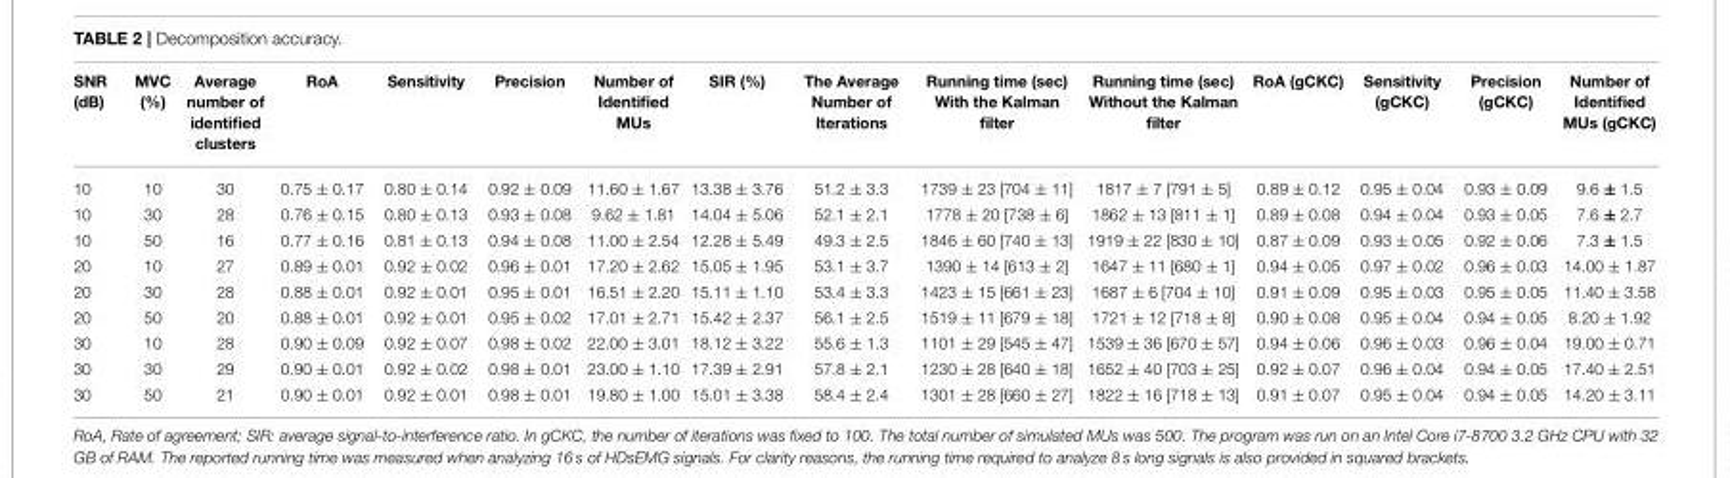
<table><thead><tr><td>SNR (dB)</td><td>MVC (%)</td><td>Average number of identified clusters</td><td>RoA</td><td>Sensitivity</td><td>Precision</td><td>Number of Identified MUs</td><td>SIR (%)</td><td>The Average Number of Iterations</td><td>Running time (sec) With the Kalman filter</td><td>Running time (sec) Without the Kalman filter</td><td>RoA (gCKC)</td><td>Sensitivity (gCKC)</td><td>Precision (gCKC)</td><td>Number of Identified MUs (gCKC)</td></tr></thead><tbody><tr><td>10</td><td>10</td><td>30</td><td>0.75 ± 0.17</td><td>0.80 ± 0.14</td><td>0.92 ± 0.09</td><td>11.60 ± 1.67</td><td>13.38 ± 3.76</td><td>51.2 ± 3.3</td><td>1739 ± 23 [704 ± 11]</td><td>1817 ± 7 [791 ± 5]</td><td>0.89 ± 0.12</td><td>0.95 ± 0.04</td><td>0.93 ± 0.09</td><td>9.6 ± 1.5</td></tr><tr><td>10</td><td>30</td><td>28</td><td>0.76 ± 0.15</td><td>0.80 ± 0.13</td><td>0.93 ± 0.08</td><td>9.62 ± 1.81</td><td>14.04 ± 5.06</td><td>52.1 ± 2.1</td><td>1778 ± 20 [738 ± 6]</td><td>1862 ± 13 [811 ± 1]</td><td>0.89 ± 0.08</td><td>0.94 ± 0.04</td><td>0.93 ± 0.05</td><td>7.6 ± 2.7</td></tr><tr><td>10</td><td>50</td><td>16</td><td>0.77 ± 0.16</td><td>0.81 ± 0.13</td><td>0.94 ± 0.08</td><td>11.00 ± 2.54</td><td>12.28 ± 5.49</td><td>49.3 ± 2.5</td><td>1846 ± 60 [740 ± 13]</td><td>1919 ± 22 [830 ± 10]</td><td>0.87 ± 0.09</td><td>0.93 ± 0.05</td><td>0.92 ± 0.06</td><td>7.3 ± 1.5</td></tr><tr><td>20</td><td>10</td><td>27</td><td>0.89 ± 0.01</td><td>0.92 ± 0.02</td><td>0.96 ± 0.01</td><td>17.20 ± 2.62</td><td>15.05 ± 1.95</td><td>53.1 ± 3.7</td><td>1390 ± 14 [613 ± 2]</td><td>1647 ± 11 [680 ± 1]</td><td>0.94 ± 0.05</td><td>0.97 ± 0.02</td><td>0.96 ± 0.03</td><td>14.00 ± 1.87</td></tr><tr><td>20</td><td>30</td><td>28</td><td>0.88 ± 0.01</td><td>0.92 ± 0.01</td><td>0.95 ± 0.01</td><td>16.51 ± 2.20</td><td>15.11 ± 1.10</td><td>53.4 ± 3.3</td><td>1423 ± 15 [661 ± 23]</td><td>1687 ± 6 [704 ± 10]</td><td>0.91 ± 0.09</td><td>0.95 ± 0.03</td><td>0.95 ± 0.05</td><td>11.40 ± 3.58</td></tr><tr><td>20</td><td>50</td><td>20</td><td>0.88 ± 0.01</td><td>0.92 ± 0.01</td><td>0.95 ± 0.02</td><td>17.01 ± 2.71</td><td>15.42 ± 2.37</td><td>56.1 ± 2.5</td><td>1519 ± 11 [679 ± 18]</td><td>1721 ± 12 [718 ± 8]</td><td>0.90 ± 0.08</td><td>0.95 ± 0.04</td><td>0.94 ± 0.05</td><td>8.20 ± 1.92</td></tr><tr><td>30</td><td>10</td><td>28</td><td>0.90 ± 0.09</td><td>0.92 ± 0.07</td><td>0.98 ± 0.02</td><td>22.00 ± 3.01</td><td>18.12 ± 3.22</td><td>55.6 ± 1.3</td><td>1101 ± 29 [545 ± 47]</td><td>1539 ± 36 [670 ± 57]</td><td>0.94 ± 0.06</td><td>0.96 ± 0.03</td><td>0.96 ± 0.04</td><td>19.00 ± 0.71</td></tr><tr><td>30</td><td>30</td><td>29</td><td>0.90 ± 0.01</td><td>0.92 ± 0.02</td><td>0.98 ± 0.01</td><td>23.00 ± 1.10</td><td>17.39 ± 2.91</td><td>57.8 ± 2.1</td><td>1230 ± 28 [640 ± 18]</td><td>1652 ± 40 [703 ± 25]</td><td>0.92 ± 0.07</td><td>0.96 ± 0.04</td><td>0.94 ± 0.05</td><td>17.40 ± 2.51</td></tr><tr><td>30</td><td>50</td><td>21</td><td>0.90 ± 0.01</td><td>0.92 ± 0.01</td><td>0.98 ± 0.01</td><td>19.80 ± 1.00</td><td>15.01 ± 3.38</td><td>58.4 ± 2.4</td><td>1301 ± 28 [660 ± 27]</td><td>1822 ± 16 [718 ± 13]</td><td>0.91 ± 0.07</td><td>0.95 ± 0.04</td><td>0.94 ± 0.05</td><td>14.20 ± 3.11</td></tr></tbody></table>